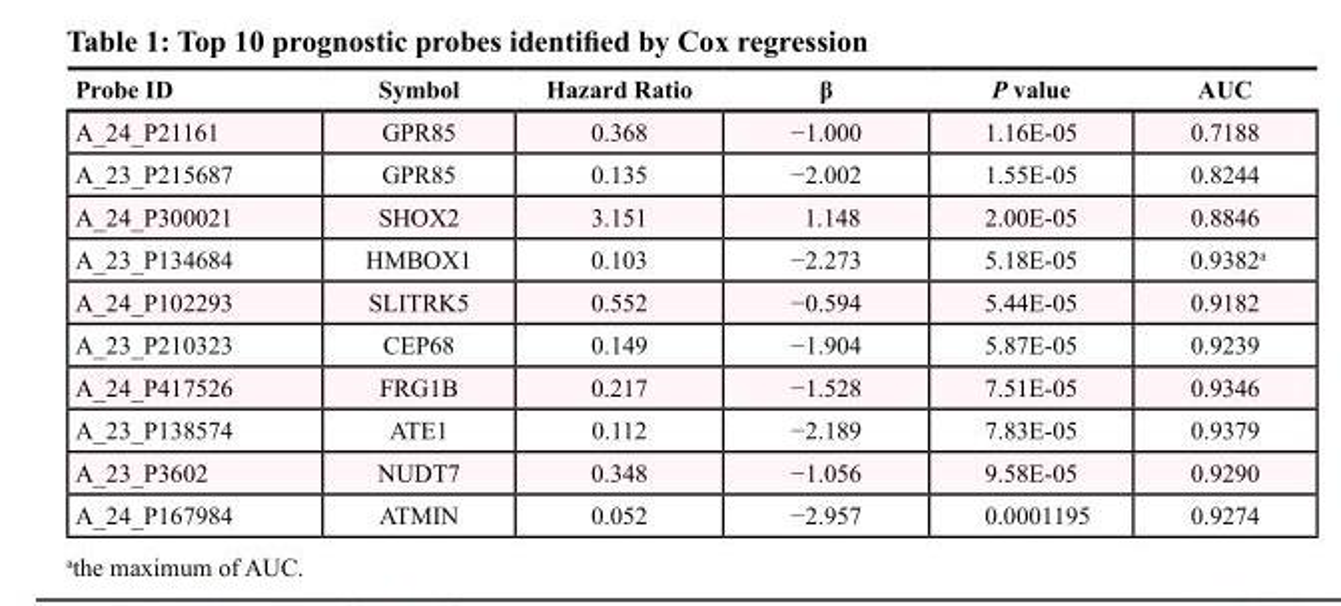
<table><thead><tr><td>Probe ID</td><td>Symbol</td><td>Hazard Ratio</td><td>β</td><td>P value</td><td>AUC</td></tr></thead><tbody><tr><td>A_24_P21161</td><td>GPR85</td><td>0.368</td><td>−1.000</td><td>1.16E-05</td><td>0.7188</td></tr><tr><td>A_23_P215687</td><td>GPR85</td><td>0.135</td><td>−2.002</td><td>1.55E-05</td><td>0.8244</td></tr><tr><td>A_24_P300021</td><td>SHOX2</td><td>3.151</td><td>1.148</td><td>2.00E-05</td><td>0.8846</td></tr><tr><td>A_23_P134684</td><td>HMBOX1</td><td>0.103</td><td>−2.273</td><td>5.18E-05</td><td>0.9382<sup>a</sup></td></tr><tr><td>A_24_P102293</td><td>SLITRK5</td><td>0.552</td><td>−0.594</td><td>5.44E-05</td><td>0.9182</td></tr><tr><td>A_23_P210323</td><td>CEP68</td><td>0.149</td><td>−1.904</td><td>5.87E-05</td><td>0.9239</td></tr><tr><td>A_24_P417526</td><td>FRG1B</td><td>0.217</td><td>−1.528</td><td>7.51E-05</td><td>0.9346</td></tr><tr><td>A_23_P138574</td><td>ATE1</td><td>0.112</td><td>−2.189</td><td>7.83E-05</td><td>0.9379</td></tr><tr><td>A_23_P3602</td><td>NUDT7</td><td>0.348</td><td>−1.056</td><td>9.58E-05</td><td>0.9290</td></tr><tr><td>A_24_P167984</td><td>ATMIN</td><td>0.052</td><td>−2.957</td><td>0.0001195</td><td>0.9274</td></tr></tbody></table>